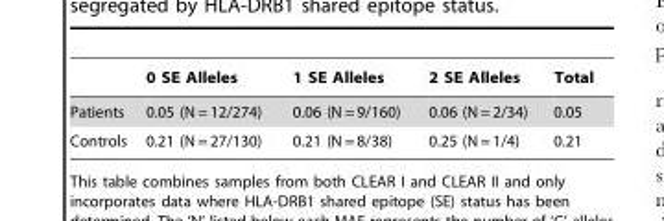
<table><thead><tr><td></td><td>0 SE Alleles</td><td>1 SE Alleles</td><td>2 SE Alleles</td><td>Total</td></tr></thead><tbody><tr><td>Patients</td><td>0.05 (N = 12/274)</td><td>0.06 (N = 9/160)</td><td>0.06 (N = 2/34)</td><td>0.05</td></tr><tr><td>Controls</td><td>0.21 (N = 27/130)</td><td>0.21 (N = 8/38)</td><td>0.25 (N = 1/4)</td><td>0.21</td></tr></tbody></table>